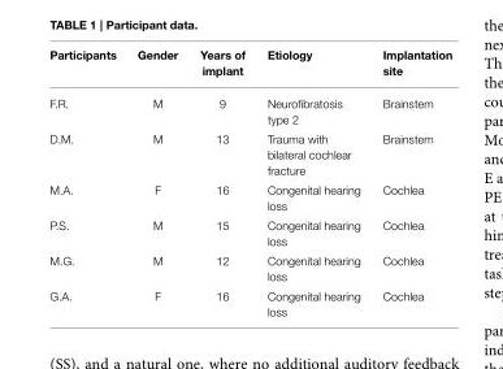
<table><thead><tr><td>Participants</td><td>Gender</td><td>Years of implant</td><td>Etiology</td><td>Implantation site</td></tr></thead><tbody><tr><td>F.R.</td><td>M</td><td>9</td><td>Neurofibratosis type 2</td><td>Brainstem</td></tr><tr><td>D.M.</td><td>M</td><td>13</td><td>Trauma with bilateral cochlear fracture</td><td>Brainstem</td></tr><tr><td>M.A.</td><td>F</td><td>16</td><td>Congenital hearing loss</td><td>Cochlea</td></tr><tr><td>P.S.</td><td>M</td><td>15</td><td>Congenital hearing loss</td><td>Cochlea</td></tr><tr><td>M.G.</td><td>M</td><td>12</td><td>Congenital hearing loss</td><td>Cochlea</td></tr><tr><td>G.A.</td><td>F</td><td>16</td><td>Congenital hearing loss</td><td>Cochlea</td></tr></tbody></table>